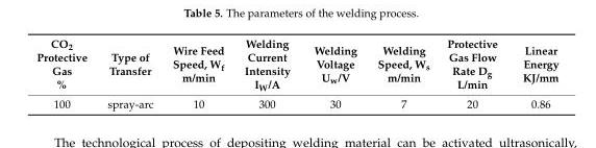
<table><thead><tr><td>CO<sub>2</sub> Protective Gas %</td><td>Type of Transfer</td><td>Wire Feed Speed, W<sub>f</sub> m/min</td><td>Welding Current Intensity I<sub>W</sub>/A</td><td>Welding Voltage U<sub>w</sub>/V</td><td>Welding Speed, W<sub>s</sub> m/min</td><td>Protective Gas Flow Rate D<sub>g</sub> L/min</td><td>Linear Energy KJ/mm</td></tr></thead><tbody><tr><td>100</td><td>spray-arc</td><td>10</td><td>300</td><td>30</td><td>7</td><td>20</td><td>0.86</td></tr></tbody></table>